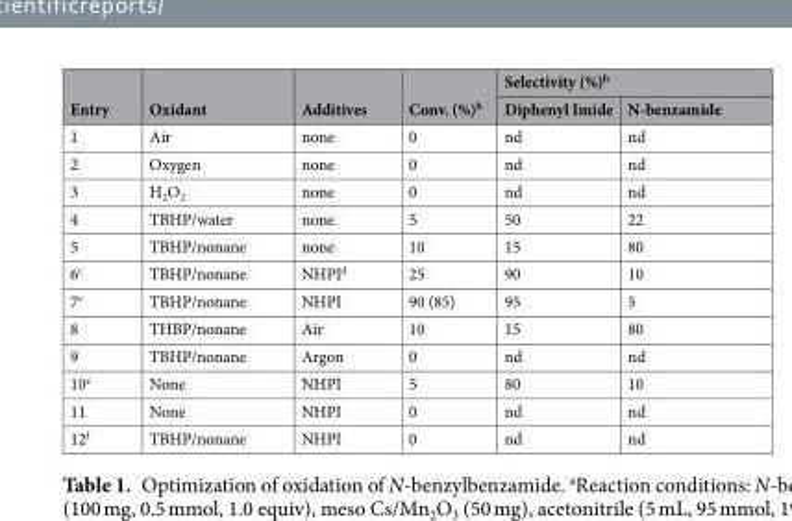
<table><thead><tr><td rowspan="2">Entry</td><td rowspan="2">Oxidant</td><td rowspan="2">Additives</td><td rowspan="2">Conv. (%)<sup>b</sup></td><td colspan="2">Selectivity (%)<sup>b</sup></td></tr><tr><td>Diphenyl Imide</td><td>N-benzamide</td></tr></thead><tbody><tr><td>1</td><td>Air</td><td>none</td><td>0</td><td>nd</td><td>nd</td></tr><tr><td>2</td><td>Oxygen</td><td>none</td><td>0</td><td>nd</td><td>nd</td></tr><tr><td>3</td><td>H<sub>2</sub>O<sub>2</sub></td><td>none</td><td>0</td><td>nd</td><td>nd</td></tr><tr><td>4</td><td>TBHP/water</td><td>none</td><td>5</td><td>50</td><td>22</td></tr><tr><td>5</td><td>TBHP/nonane</td><td>none</td><td>10</td><td>15</td><td>80</td></tr><tr><td>6<sup>c</sup></td><td>TBHP/nonane</td><td>NHPI<sup>d</sup></td><td>25</td><td>90</td><td>10</td></tr><tr><td>7<sup>e</sup></td><td>TBHP/nonane</td><td>NHPI</td><td>90 (85)</td><td>95</td><td>5</td></tr><tr><td>8</td><td>THBP/nonane</td><td>Air</td><td>10</td><td>15</td><td>80</td></tr><tr><td>9</td><td>TBHP/nonane</td><td>Argon</td><td>0</td><td>nd</td><td>nd</td></tr><tr><td>10<sup>e</sup></td><td>None</td><td>NHPI</td><td>5</td><td>80</td><td>10</td></tr><tr><td>11</td><td>None</td><td>NHPI</td><td>0</td><td>nd</td><td>nd</td></tr><tr><td>12<sup>f</sup></td><td>TBHP/nonane</td><td>NHPI</td><td>0</td><td>nd</td><td>nd</td></tr></tbody></table>